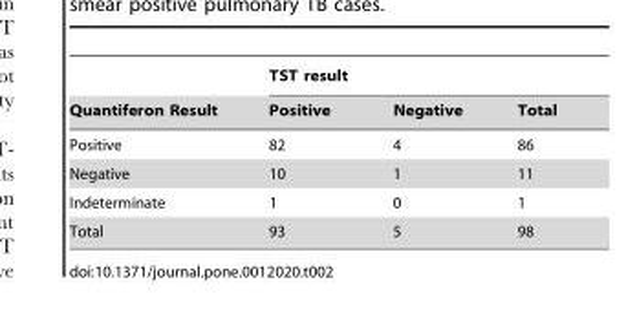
<table><thead><tr><td rowspan="2">Quantiferon Result</td><td colspan="3">TST result</td></tr><tr><td>Positive</td><td>Negative</td><td>Total</td></tr></thead><tbody><tr><td>Positive</td><td>82</td><td>4</td><td>86</td></tr><tr><td>Negative</td><td>10</td><td>1</td><td>11</td></tr><tr><td>Indeterminate</td><td>1</td><td>0</td><td>1</td></tr><tr><td>Total</td><td>93</td><td>5</td><td>98</td></tr></tbody></table>